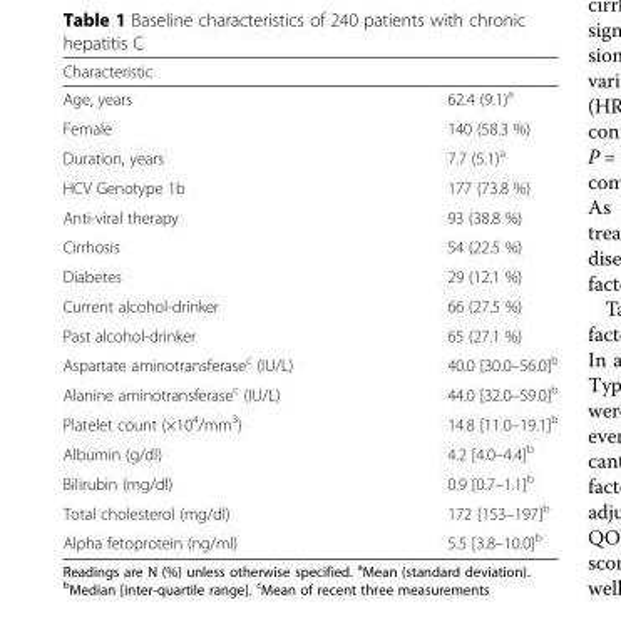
<table><thead><tr><td>Characteristic</td><td></td></tr></thead><tbody><tr><td>Age, years</td><td>62.4 (9.1)<sup>a</sup></td></tr><tr><td>Female</td><td>140 (58.3 %)</td></tr><tr><td>Duration, years</td><td>7.7 (5.1)<sup>a</sup></td></tr><tr><td>HCV Genotype 1b</td><td>177 (73.8 %)</td></tr><tr><td>Anti-viral therapy</td><td>93 (38.8 %)</td></tr><tr><td>Cirrhosis</td><td>54 (22.5 %)</td></tr><tr><td>Diabetes</td><td>29 (12.1 %)</td></tr><tr><td>Current alcohol-drinker</td><td>66 (27.5 %)</td></tr><tr><td>Past alcohol-drinker</td><td>65 (27.1 %)</td></tr><tr><td>Aspartate aminotransferase<sup>c</sup> (IU/L)</td><td>40.0 [30.0–56.0]<sup>b</sup></td></tr><tr><td>Alanine aminotransferase<sup>c</sup> (IU/L)</td><td>44.0 [32.0–59.0]<sup>b</sup></td></tr><tr><td>Platelet count (×10<sup>4</sup>/mm<sup>3</sup>)</td><td>14.8 [11.0–19.1]<sup>b</sup></td></tr><tr><td>Albumin (g/dl)</td><td>4.2 [4.0–4.4]<sup>b</sup></td></tr><tr><td>Bilirubin (mg/dl)</td><td>0.9 [0.7–1.1]<sup>b</sup></td></tr><tr><td>Total cholesterol (mg/dl)</td><td>172 [153–197]<sup>b</sup></td></tr><tr><td>Alpha fetoprotein (ng/ml)</td><td>5.5 [3.8–10.0]<sup>b</sup></td></tr></tbody></table>